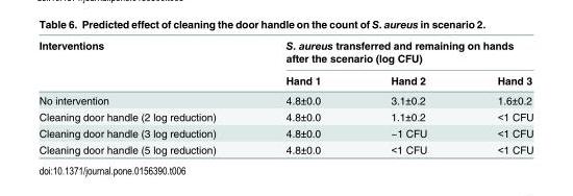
<table><thead><tr><td rowspan="2">Interventions</td><td colspan="3">S. aureus transferred and remaining on hands after the scenario (log CFU)</td></tr><tr><td>Hand 1</td><td>Hand 2</td><td>Hand 3</td></tr></thead><tbody><tr><td>No intervention</td><td>4.8±0.0</td><td>3.1±0.2</td><td>1.6±0.2</td></tr><tr><td>Cleaning door handle (2 log reduction)</td><td>4.8±0.0</td><td>1.1±0.2</td><td>&lt;1 CFU</td></tr><tr><td>Cleaning door handle (3 log reduction)</td><td>4.8±0.0</td><td>~1 CFU</td><td>&lt;1 CFU</td></tr><tr><td>Cleaning door handle (5 log reduction)</td><td>4.8±0.0</td><td>&lt;1 CFU</td><td>&lt;1 CFU</td></tr></tbody></table>